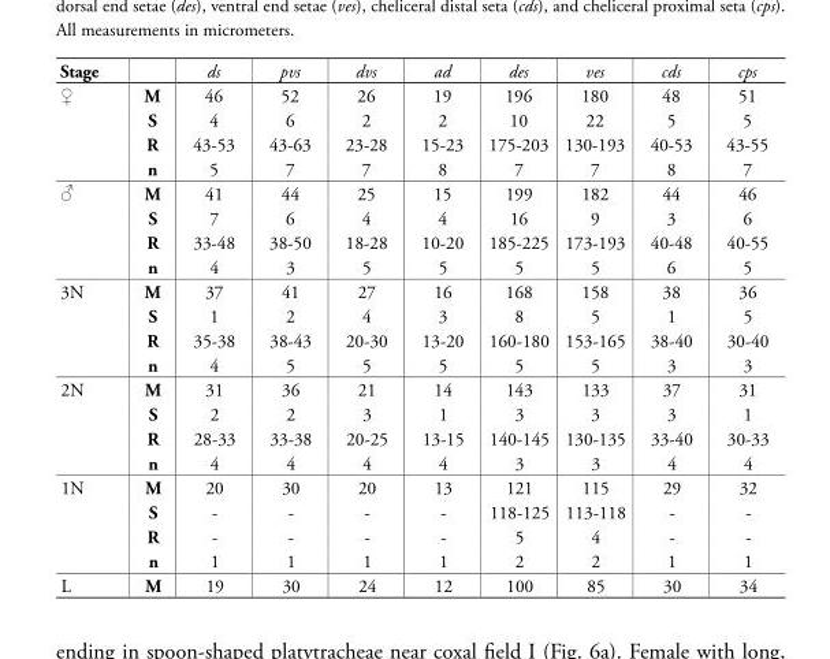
<table><thead><tr><td>Stage</td><td></td><td>ds</td><td>pvs</td><td>dvs</td><td>ad</td><td>des</td><td>ves</td><td>cds</td><td>cps</td></tr></thead><tbody><tr><td rowspan="4">♀</td><td>M</td><td>46</td><td>52</td><td>26</td><td>19</td><td>196</td><td>180</td><td>48</td><td>51</td></tr><tr><td>S</td><td>4</td><td>6</td><td>2</td><td>2</td><td>10</td><td>22</td><td>5</td><td>5</td></tr><tr><td>R</td><td>43-53</td><td>43-63</td><td>23-28</td><td>15-23</td><td>175-203</td><td>130-193</td><td>40-53</td><td>43-55</td></tr><tr><td>n</td><td>5</td><td>7</td><td>7</td><td>8</td><td>7</td><td>7</td><td>8</td><td>7</td></tr><tr><td rowspan="4">♂</td><td>M</td><td>41</td><td>44</td><td>25</td><td>15</td><td>199</td><td>182</td><td>44</td><td>46</td></tr><tr><td>S</td><td>7</td><td>6</td><td>4</td><td>4</td><td>16</td><td>9</td><td>3</td><td>6</td></tr><tr><td>R</td><td>33-48</td><td>38-50</td><td>18-28</td><td>10-20</td><td>185-225</td><td>173-193</td><td>40-48</td><td>40-55</td></tr><tr><td>n</td><td>4</td><td>3</td><td>5</td><td>5</td><td>5</td><td>5</td><td>6</td><td>5</td></tr><tr><td rowspan="4">3N</td><td>M</td><td>37</td><td>41</td><td>27</td><td>16</td><td>168</td><td>158</td><td>38</td><td>36</td></tr><tr><td>S</td><td>1</td><td>2</td><td>4</td><td>3</td><td>8</td><td>5</td><td>1</td><td>5</td></tr><tr><td>R</td><td>35-38</td><td>38-43</td><td>20-30</td><td>13-20</td><td>160-180</td><td>153-165</td><td>38-40</td><td>30-40</td></tr><tr><td>n</td><td>4</td><td>5</td><td>5</td><td>5</td><td>5</td><td>5</td><td>3</td><td>3</td></tr><tr><td rowspan="4">2N</td><td>M</td><td>31</td><td>36</td><td>21</td><td>14</td><td>143</td><td>133</td><td>37</td><td>31</td></tr><tr><td>S</td><td>2</td><td>2</td><td>3</td><td>1</td><td>3</td><td>3</td><td>3</td><td>1</td></tr><tr><td>R</td><td>28-33</td><td>33-38</td><td>20-25</td><td>13-15</td><td>140-145</td><td>130-135</td><td>33-40</td><td>30-33</td></tr><tr><td>n</td><td>4</td><td>4</td><td>4</td><td>4</td><td>3</td><td>3</td><td>4</td><td>4</td></tr><tr><td rowspan="4">1N</td><td>M</td><td>20</td><td>30</td><td>20</td><td>13</td><td>121</td><td>115</td><td>29</td><td>32</td></tr><tr><td>S</td><td>-</td><td>-</td><td>-</td><td>-</td><td>118-125</td><td>113-118</td><td>-</td><td>-</td></tr><tr><td>R</td><td>-</td><td>-</td><td>-</td><td>-</td><td>5</td><td>4</td><td>-</td><td>-</td></tr><tr><td>n</td><td>1</td><td>1</td><td>1</td><td>1</td><td>2</td><td>2</td><td>1</td><td>1</td></tr><tr><td>L</td><td>M</td><td>19</td><td>30</td><td>24</td><td>12</td><td>100</td><td>85</td><td>30</td><td>34</td></tr></tbody></table>